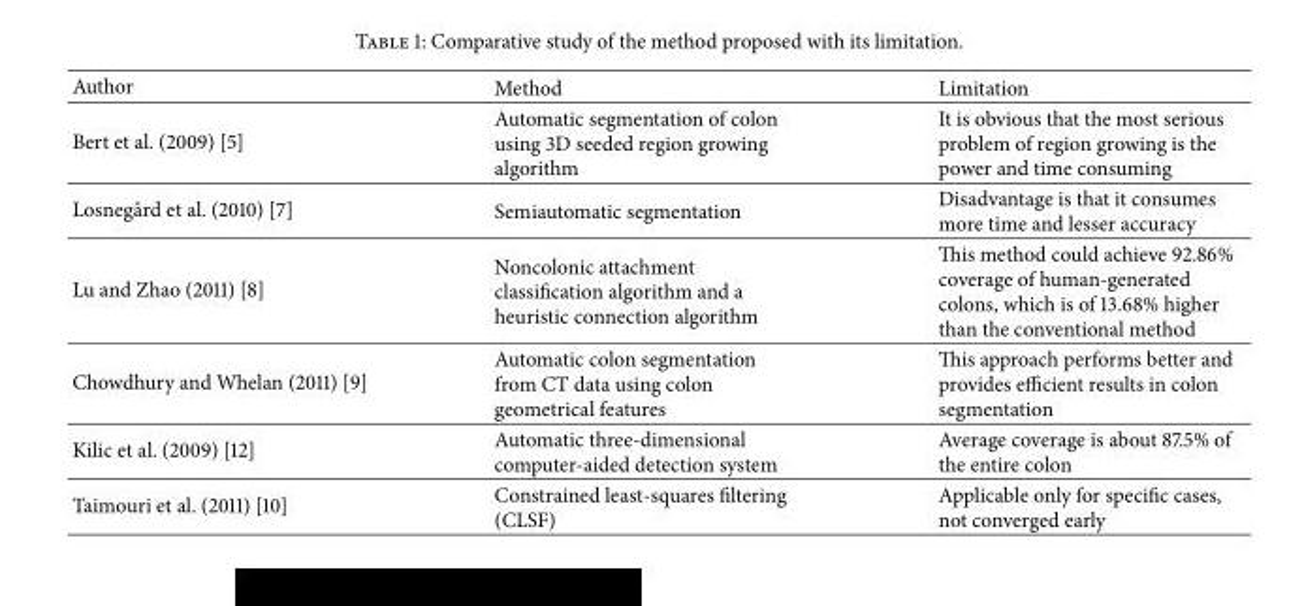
<table><thead><tr><td>Author</td><td>Method</td><td>Limitation</td></tr></thead><tbody><tr><td>Bert et al. (2009) [5]</td><td>Automatic segmentation of colon using 3D seeded region growing algorithm</td><td>It is obvious that the most serious problem of region growing is the power and time consuming</td></tr><tr><td>Losneg˚ard et al. (2010) [7]</td><td>Semiautomatic segmentation</td><td>Disadvantage is that it consumes more time and lesser accuracy</td></tr><tr><td>Lu and Zhao (2011) [8]</td><td>Noncolonic attachment classification algorithm and a heuristic connection algorithm</td><td>This method could achieve 92.86% coverage of human-generated colons, which is of 13.68% higher than the conventional method</td></tr><tr><td>Chowdhury and Whelan (2011) [9]</td><td>Automatic colon segmentation from CT data using colon geometrical features</td><td>This approach performs better and provides efficient results in colon segmentation</td></tr><tr><td>Kilic et al. (2009) [12]</td><td>Automatic three-dimensional computer-aided detection system</td><td>Average coverage is about 87.5% of the entire colon</td></tr><tr><td>Taimouri et al. (2011) [10]</td><td>Constrained least-squares filtering (CLSF)</td><td>Applicable only for specific cases, not converged early</td></tr></tbody></table>